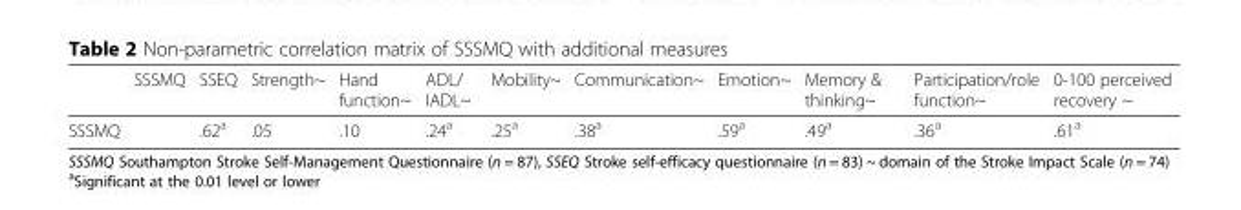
<table><thead><tr><td></td><td>SSSMQ</td><td>SSEQ</td><td>Strength~</td><td>Hand function~</td><td>ADL/ IADL~</td><td>Mobility~</td><td>Communication~</td><td>Emotion~</td><td>Memory &amp; thinking~</td><td>Participation/role function~</td><td>0-100 perceived recovery ~</td></tr></thead><tbody><tr><td>SSSMQ</td><td></td><td>.62<sup>a</sup></td><td>.05</td><td>.10</td><td>.24<sup>a</sup></td><td>.25<sup>a</sup></td><td>.38<sup>a</sup></td><td>.59<sup>a</sup></td><td>.49<sup>a</sup></td><td>.36<sup>a</sup></td><td>.61<sup>a</sup></td></tr></tbody></table>